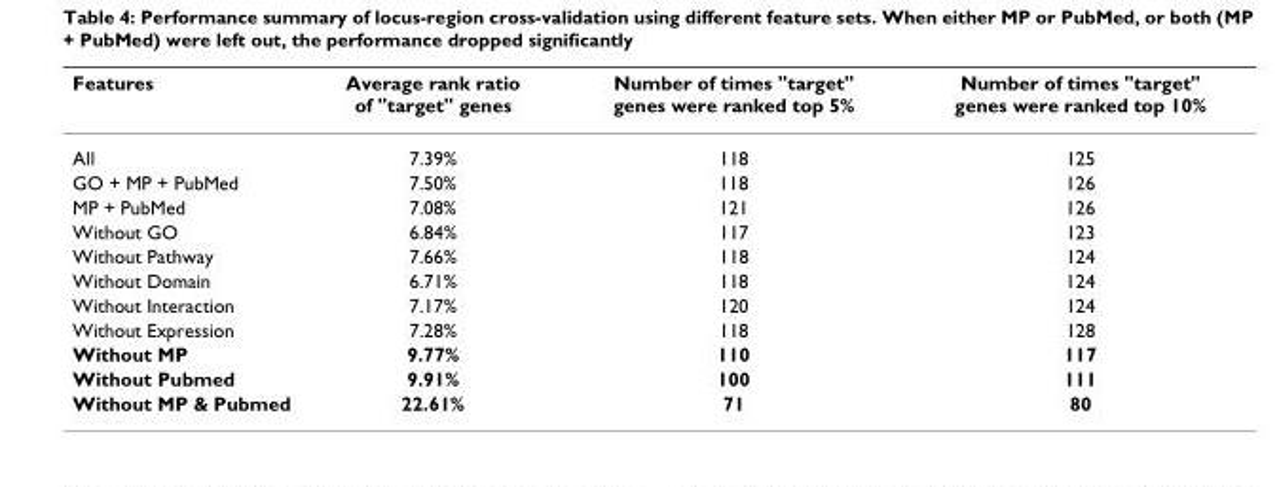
<table><thead><tr><td>Features</td><td>Average rank ratio of &quot;target&quot; genes</td><td>Number of times &quot;target&quot; genes were ranked top 5%</td><td>Number of times &quot;target&quot; genes were ranked top 10%</td></tr></thead><tbody><tr><td>All</td><td>7.39%</td><td>118</td><td>125</td></tr><tr><td>GO + MP + PubMed</td><td>7.50%</td><td>118</td><td>126</td></tr><tr><td>MP + PubMed</td><td>7.08%</td><td>121</td><td>126</td></tr><tr><td>Without GO</td><td>6.84%</td><td>117</td><td>123</td></tr><tr><td>Without Pathway</td><td>7.66%</td><td>118</td><td>124</td></tr><tr><td>Without Domain</td><td>6.71%</td><td>118</td><td>124</td></tr><tr><td>Without Interaction</td><td>7.17%</td><td>120</td><td>124</td></tr><tr><td>Without Expression</td><td>7.28%</td><td>118</td><td>128</td></tr><tr><td>Without MP</td><td>9.77%</td><td>110</td><td>117</td></tr><tr><td>Without Pubmed</td><td>9.91%</td><td>100</td><td>111</td></tr><tr><td>Without MP &amp; Pubmed</td><td>22.61%</td><td>71</td><td>80</td></tr></tbody></table>